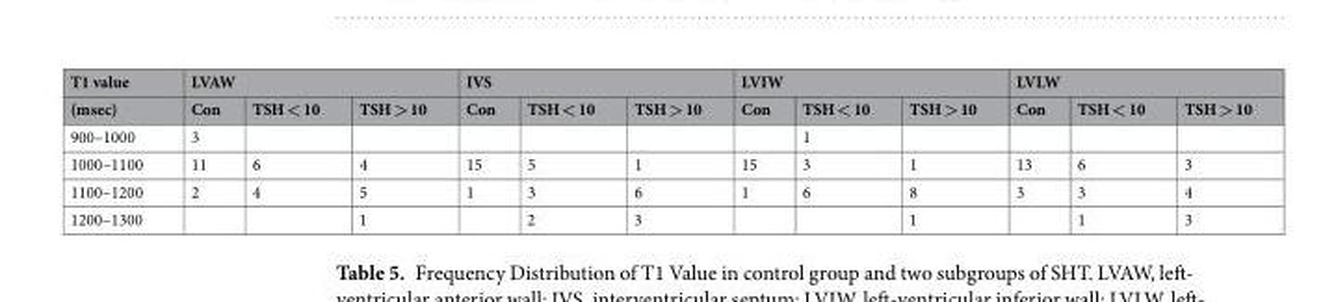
<table><thead><tr><td rowspan="2">T1 value (msec)</td><td colspan="3">LVAW</td><td colspan="3">IVS</td><td colspan="3">LVIW</td><td colspan="3">LVLW</td></tr><tr><td>Con</td><td>TSH &lt; 10</td><td>TSH &gt; 10</td><td>Con</td><td>TSH &lt; 10</td><td>TSH &gt; 10</td><td>Con</td><td>TSH &lt; 10</td><td>TSH &gt; 10</td><td>Con</td><td>TSH &lt; 10</td><td>TSH &gt; 10</td></tr></thead><tbody><tr><td>900–1000</td><td>3</td><td></td><td></td><td></td><td></td><td></td><td></td><td>1</td><td></td><td></td><td></td><td></td></tr><tr><td>1000–1100</td><td>11</td><td>6</td><td>4</td><td>15</td><td>5</td><td>1</td><td>15</td><td>3</td><td>1</td><td>13</td><td>6</td><td>3</td></tr><tr><td>1100–1200</td><td>2</td><td>4</td><td>5</td><td>1</td><td>3</td><td>6</td><td>1</td><td>6</td><td>8</td><td>3</td><td>3</td><td>4</td></tr><tr><td>1200–1300</td><td></td><td></td><td>1</td><td></td><td>2</td><td>3</td><td></td><td></td><td>1</td><td></td><td>1</td><td>3</td></tr></tbody></table>